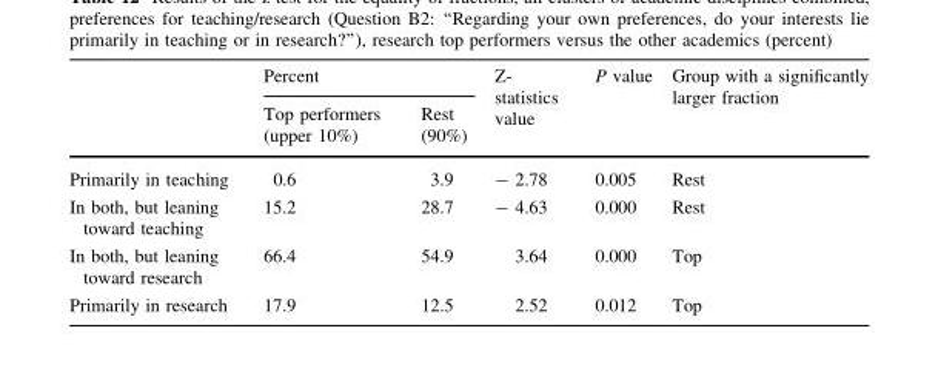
<table><thead><tr><td rowspan="2"></td><td colspan="2">Percent</td><td rowspan="2">Z- statistics value</td><td rowspan="2">P value</td><td rowspan="2">Group with a significantly larger fraction</td></tr><tr><td>Top performers (upper 10%)</td><td>Rest (90%)</td></tr></thead><tbody><tr><td>Primarily in teaching</td><td>0.6</td><td>3.9</td><td>- 2.78</td><td>0.005</td><td>Rest</td></tr><tr><td>In both, but leaning toward teaching</td><td>15.2</td><td>28.7</td><td>- 4.63</td><td>0.000</td><td>Rest</td></tr><tr><td>In both, but leaning toward research</td><td>66.4</td><td>54.9</td><td>3.64</td><td>0.000</td><td>Top</td></tr><tr><td>Primarily in research</td><td>17.9</td><td>12.5</td><td>2.52</td><td>0.012</td><td>Top</td></tr></tbody></table>